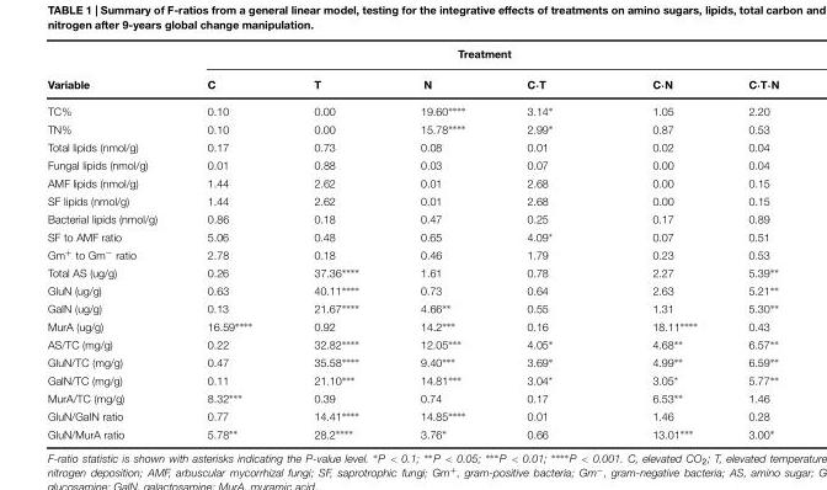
<table><thead><tr><td rowspan="2">Variable</td><td colspan="6">Treatment</td></tr><tr><td>C</td><td>T</td><td>N</td><td>C·T</td><td>C·N</td><td>C·T·N</td></tr></thead><tbody><tr><td>TC%</td><td>0.10</td><td>0.00</td><td>19.60∗∗∗∗</td><td>3.14∗</td><td>1.05</td><td>2.20</td></tr><tr><td>TN%</td><td>0.10</td><td>0.00</td><td>15.78∗∗∗∗</td><td>2.99∗</td><td>0.87</td><td>0.53</td></tr><tr><td>Total lipids (nmol/g)</td><td>0.17</td><td>0.73</td><td>0.08</td><td>0.01</td><td>0.02</td><td>0.04</td></tr><tr><td>Fungal lipids (nmol/g)</td><td>0.01</td><td>0.88</td><td>0.03</td><td>0.07</td><td>0.00</td><td>0.04</td></tr><tr><td>AMF lipids (nmol/g)</td><td>1.44</td><td>2.62</td><td>0.01</td><td>2.68</td><td>0.00</td><td>0.15</td></tr><tr><td>SF lipids (nmol/g)</td><td>1.44</td><td>2.62</td><td>0.01</td><td>2.68</td><td>0.00</td><td>0.15</td></tr><tr><td>Bacterial lipids (nmol/g)</td><td>0.86</td><td>0.18</td><td>0.47</td><td>0.25</td><td>0.17</td><td>0.89</td></tr><tr><td>SF to AMF ratio</td><td>5.06</td><td>0.48</td><td>0.65</td><td>4.09*</td><td>0.07</td><td>0.51</td></tr><tr><td>Gm<sup>+</sup> to Gm<sup>−</sup> ratio</td><td>2.78</td><td>0.18</td><td>0.46</td><td>1.79</td><td>0.23</td><td>0.53</td></tr><tr><td>Total AS (ug/g)</td><td>0.26</td><td>37.36∗∗∗∗</td><td>1.61</td><td>0.78</td><td>2.27</td><td>5.39∗∗</td></tr><tr><td>GluN (ug/g)</td><td>0.63</td><td>40.11∗∗∗∗</td><td>0.73</td><td>0.64</td><td>2.63</td><td>5.21∗∗</td></tr><tr><td>GaIN (ug/g)</td><td>0.13</td><td>21.67∗∗∗∗</td><td>4.66∗∗</td><td>0.55</td><td>1.31</td><td>5.30∗∗</td></tr><tr><td>MurA (ug/g)</td><td>16.59∗∗∗∗</td><td>0.92</td><td>14.2∗∗∗</td><td>0.16</td><td>18.11∗∗∗∗</td><td>0.43</td></tr><tr><td>AS/TC (mg/g)</td><td>0.22</td><td>32.82∗∗∗∗</td><td>12.05∗∗∗</td><td>4.05∗</td><td>4.68∗∗</td><td>6.57∗∗</td></tr><tr><td>GluN/TC (mg/g)</td><td>0.47</td><td>35.58∗∗∗∗</td><td>9.40∗∗∗</td><td>3.69∗</td><td>4.99∗∗</td><td>6.59∗∗</td></tr><tr><td>GalN/TC (mg/g)</td><td>0.11</td><td>21.10∗∗∗</td><td>14.81∗∗∗</td><td>3.04*</td><td>3.05*</td><td>5.77∗∗</td></tr><tr><td>MurA/TC (mg/g)</td><td>8.32∗∗∗</td><td>0.39</td><td>0.74</td><td>0.17</td><td>6.53∗∗</td><td>1.46</td></tr><tr><td>GluN/GaIN ratio</td><td>0.77</td><td>14.41∗∗∗∗</td><td>14.85∗∗∗∗</td><td>0.01</td><td>1.46</td><td>0.28</td></tr><tr><td>GluN/MurA ratio</td><td>5.78∗∗</td><td>28.2∗∗∗∗</td><td>3.76∗</td><td>0.66</td><td>13.01∗∗∗</td><td>3.00∗</td></tr></tbody></table>